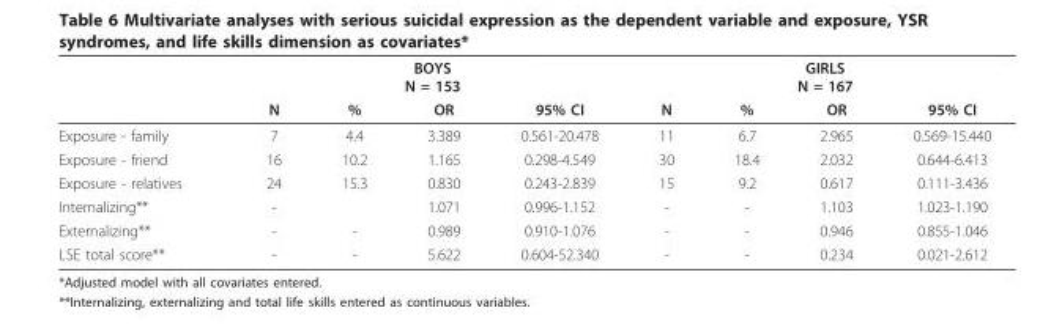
<table><thead><tr><td rowspan="2"></td><td colspan="4">BOYS N = 153</td><td colspan="4">GIRLS N = 167</td></tr><tr><td>N</td><td>%</td><td>OR</td><td>95% CI</td><td>N</td><td>%</td><td>OR</td><td>95% CI</td></tr></thead><tbody><tr><td>Exposure - family</td><td>7</td><td>4.4</td><td>3.389</td><td>0.561-20.478</td><td>11</td><td>6.7</td><td>2.965</td><td>0.569-15.440</td></tr><tr><td>Exposure - friend</td><td>16</td><td>10.2</td><td>1.165</td><td>0.298-4.549</td><td>30</td><td>18.4</td><td>2.032</td><td>0.644-6.413</td></tr><tr><td>Exposure - relatives</td><td>24</td><td>15.3</td><td>0.830</td><td>0.243-2.839</td><td>15</td><td>9.2</td><td>0.617</td><td>0.111-3.436</td></tr><tr><td>Internalizing**</td><td>-</td><td></td><td>1.071</td><td>0.996-1.152</td><td>-</td><td>-</td><td>1.103</td><td>1.023-1.190</td></tr><tr><td>Externalizing**</td><td>-</td><td>-</td><td>0.989</td><td>0.910-1.076</td><td>-</td><td>-</td><td>0.946</td><td>0.855-1.046</td></tr><tr><td>LSE total score**</td><td>-</td><td>-</td><td>5.622</td><td>0.604-52.340</td><td>-</td><td>-</td><td>0.234</td><td>0.021-2.612</td></tr></tbody></table>